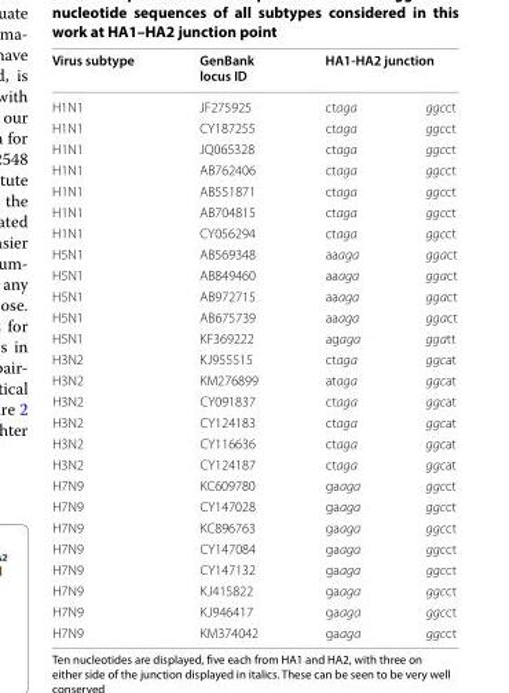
<table><thead><tr><td rowspan="2">Virus subtype H1N1</td><td rowspan="2">GenBank locus ID JF275925</td><td colspan="2">HA1-HA2 junction</td></tr><tr><td>ctaga</td><td>ggcct</td></tr></thead><tbody><tr><td>H1N1</td><td>CY187255</td><td>ctaga</td><td>ggcct</td></tr><tr><td>H1N1</td><td>JQ065328</td><td>ctaga</td><td>ggcct</td></tr><tr><td>H1N1</td><td>AB762406</td><td>ctaga</td><td>ggcct</td></tr><tr><td>H1N1</td><td>AB551871</td><td>ctaga</td><td>ggcct</td></tr><tr><td>H1N1</td><td>AB704815</td><td>ctaga</td><td>ggcct</td></tr><tr><td>H1N1</td><td>CY056294</td><td>ctaga</td><td>ggcct</td></tr><tr><td>H5N1</td><td>AB569348</td><td>aaaga</td><td>ggact</td></tr><tr><td>H5N1</td><td>AB849460</td><td>aaaga</td><td>ggact</td></tr><tr><td>H5N1</td><td>AB972715</td><td>aaaga</td><td>ggact</td></tr><tr><td>H5N1</td><td>AB675739</td><td>aaaga</td><td>ggact</td></tr><tr><td>H5N1</td><td>KF369222</td><td>agaga</td><td>ggatt</td></tr><tr><td>H3N2</td><td>KJ955515</td><td>ctaga</td><td>ggcat</td></tr><tr><td>H3N2</td><td>KM276899</td><td>ataga</td><td>ggcat</td></tr><tr><td>H3N2</td><td>CY091837</td><td>ctaga</td><td>ggcat</td></tr><tr><td>H3N2</td><td>CY124183</td><td>ctaga</td><td>ggcat</td></tr><tr><td>H3N2</td><td>CY116636</td><td>ctaga</td><td>ggcat</td></tr><tr><td>H3N2</td><td>CY124187</td><td>ctaga</td><td>ggcat</td></tr><tr><td>H7N9</td><td>KC609780</td><td>gaaga</td><td>ggcct</td></tr><tr><td>H7N9</td><td>CY147028</td><td>gaaga</td><td>ggcct</td></tr><tr><td>H7N9</td><td>KC896763</td><td>gaaga</td><td>ggcct</td></tr><tr><td>H7N9</td><td>CY147084</td><td>gaaga</td><td>ggcct</td></tr><tr><td>H7N9</td><td>CY147132</td><td>gaaga</td><td>ggcct</td></tr><tr><td>H7N9</td><td>KJ415822</td><td>gaaga</td><td>ggcct</td></tr><tr><td>H7N9</td><td>KJ946417</td><td>gaaga</td><td>ggcct</td></tr><tr><td>H7N9</td><td>KM374042</td><td>gaaga</td><td>ggcct</td></tr></tbody></table>